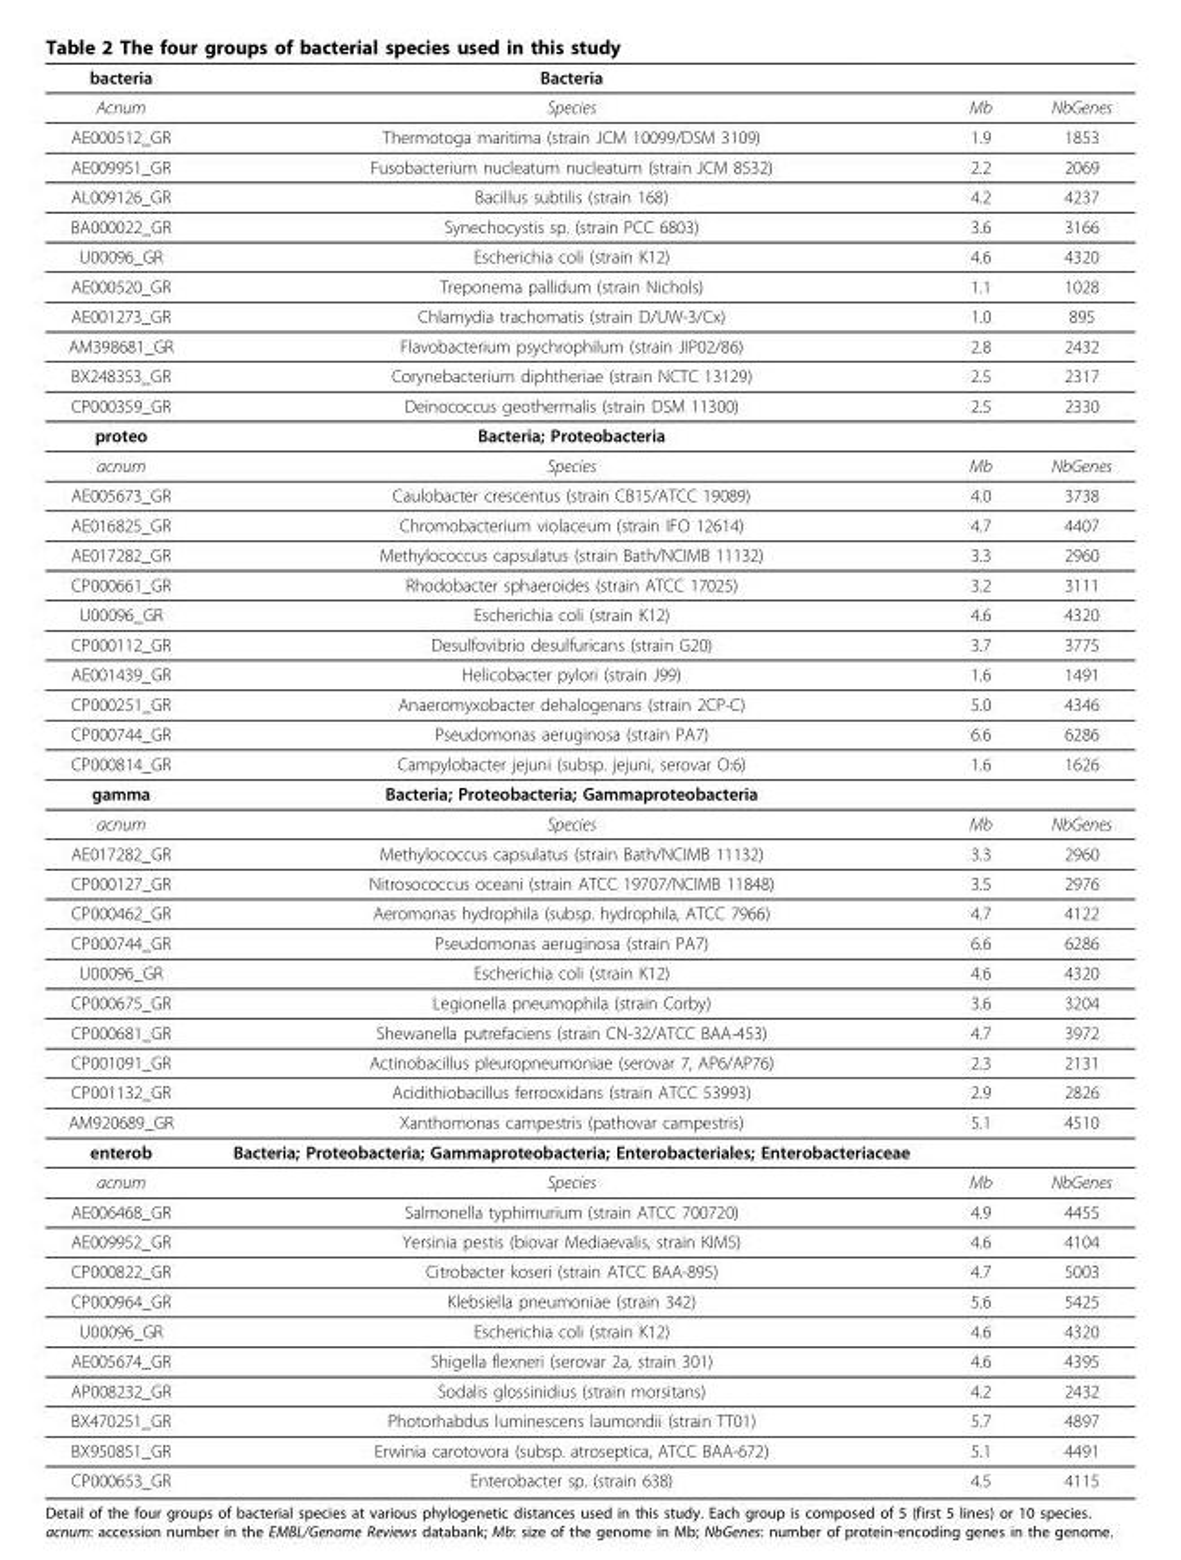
<table><thead><tr><td>bacteria</td><td>Bacteria</td><td></td><td></td></tr></thead><tbody><tr><td>Acnum</td><td>Species</td><td>Mb</td><td>NbGenes</td></tr><tr><td>AE000512_GR</td><td>Thermotoga maritima (strain JCM 10099/DSM 3109)</td><td>1.9</td><td>1853</td></tr><tr><td>AE009951_GR</td><td>Fusobacterium nucleatum nucleatum (strain JCM 8532)</td><td>2.2</td><td>2069</td></tr><tr><td>AL009126_GR</td><td>Bacillus subtilis (strain 168)</td><td>4.2</td><td>4237</td></tr><tr><td>BA000022_GR</td><td>Synechocystis sp. (strain PCC 6803)</td><td>3.6</td><td>3166</td></tr><tr><td>U00096_GR</td><td>Escherichia coli (strain K12)</td><td>4.6</td><td>4320</td></tr><tr><td>AE000520_GR</td><td>Treponema pallidum (strain Nichols)</td><td>1.1</td><td>1028</td></tr><tr><td>AE001273_GR</td><td>Chlamydia trachomatis (strain D/UW-3/Cx)</td><td>1.0</td><td>895</td></tr><tr><td>AM398681_GR</td><td>Flavobacterium psychrophilum (strain JIP02/86)</td><td>2.8</td><td>2432</td></tr><tr><td>BX248353_GR</td><td>Corynebacterium diphtheriae (strain NCTC 13129)</td><td>2.5</td><td>2317</td></tr><tr><td>CP000359_GR</td><td>Deinococcus geothermalis (strain DSM 11300)</td><td>2.5</td><td>2330</td></tr><tr><td>proteo</td><td>Bacteria; Proteobacteria</td><td></td><td></td></tr><tr><td>acnum</td><td>Species</td><td>Mb</td><td>NbGenes</td></tr><tr><td>AE005673_GR</td><td>Caulobacter crescentus (strain CB15/ATCC 19089)</td><td>4.0</td><td>3738</td></tr><tr><td>AE016825_GR</td><td>Chromobacterium violaceum (strain IFO 12614)</td><td>4.7</td><td>4407</td></tr><tr><td>AE017282_GR</td><td>Methylococcus capsulatus (strain Bath/NCIMB 11132)</td><td>3.3</td><td>2960</td></tr><tr><td>CP000661_GR</td><td>Rhodobacter sphaeroides (strain ATCC 17025)</td><td>3.2</td><td>3111</td></tr><tr><td>U00096_GR</td><td>Escherichia coli (strain K12)</td><td>4.6</td><td>4320</td></tr><tr><td>CP000112_GR</td><td>Desulfovibrio desulfuricans (strain G20)</td><td>3.7</td><td>3775</td></tr><tr><td>AE001439_GR</td><td>Helicobacter pylori (strain J99)</td><td>1.6</td><td>1491</td></tr><tr><td>CP000251_GR</td><td>Anaeromyxobacter dehalogenans (strain 2CP-C)</td><td>5.0</td><td>4346</td></tr><tr><td>CP000744_GR</td><td>Pseudomonas aeruginosa (strain PA7)</td><td>6.6</td><td>6286</td></tr><tr><td>CP000814_GR</td><td>Campylobacter jejuni (subsp. jejuni, serovar O:6)</td><td>1.6</td><td>1626</td></tr><tr><td>gamma</td><td>Bacteria; Proteobacteria; Gammaproteobacteria</td><td></td><td></td></tr><tr><td>acnum</td><td>Species</td><td>Mb</td><td>NbGenes</td></tr><tr><td>AE017282_GR</td><td>Methylococcus capsulatus (strain Bath/NCIMB 11132)</td><td>3.3</td><td>2960</td></tr><tr><td>CP000127_GR</td><td>Nitrosococcus oceani (strain ATCC 19707/NCIMB 11848)</td><td>3.5</td><td>2976</td></tr><tr><td>CP000462_GR</td><td>Aeromonas hydrophila (subsp. hydrophila, ATCC 7966)</td><td>4.7</td><td>4122</td></tr><tr><td>CP000744_GR</td><td>Pseudomonas aeruginosa (strain PA7)</td><td>6.6</td><td>6286</td></tr><tr><td>U00096_GR</td><td>Escherichia coli (strain K12)</td><td>4.6</td><td>4320</td></tr><tr><td>CP000675_GR</td><td>Legionella pneumophila (strain Corby)</td><td>3.6</td><td>3204</td></tr><tr><td>CP000681_GR</td><td>Shewanella putrefaciens (strain CN-32/ATCC BAA-453)</td><td>4.7</td><td>3972</td></tr><tr><td>CP001091_GR</td><td>Actinobacillus pleuropneumoniae (serovar 7, AP6/AP76)</td><td>2.3</td><td>2131</td></tr><tr><td>CP001132_GR</td><td>Acidithiobacillus ferrooxidans (strain ATCC 53993)</td><td>2.9</td><td>2826</td></tr><tr><td>AM920689_GR</td><td>Xanthomonas campestris (pathovar campestris)</td><td>5.1</td><td>4510</td></tr><tr><td>enterob</td><td>Bacteria; Proteobacteria; Gammaproteobacteria; Enterobacteriales; Enterobacteriaceae</td><td></td><td></td></tr><tr><td>acnum</td><td>Species</td><td>Mb</td><td>NbGenes</td></tr><tr><td>AE006468_GR</td><td>Salmonella typhimurium (strain ATCC 700720)</td><td>4.9</td><td>4455</td></tr><tr><td>AE009952_GR</td><td>Yersinia pestis (biovar Mediaevalis, strain KIM5)</td><td>4.6</td><td>4104</td></tr><tr><td>CP000822_GR</td><td>Citrobacter koseri (strain ATCC BAA-895)</td><td>4.7</td><td>5003</td></tr><tr><td>CP000964_GR</td><td>Klebsiella pneumoniae (strain 342)</td><td>5.6</td><td>5425</td></tr><tr><td>U00096_GR</td><td>Escherichia coli (strain K12)</td><td>4.6</td><td>4320</td></tr><tr><td>AE005674_GR</td><td>Shigella flexneri (serovar 2a, strain 301)</td><td>4.6</td><td>4395</td></tr><tr><td>AP008232_GR</td><td>Sodalis glossinidius (strain morsitans)</td><td>4.2</td><td>2432</td></tr><tr><td>BX470251_GR</td><td>Photorhabdus luminescens laumondii (strain TT01)</td><td>5.7</td><td>4897</td></tr><tr><td>BX950851_GR</td><td>Erwinia carotovora (subsp. atroseptica, ATCC BAA-672)</td><td>5.1</td><td>4491</td></tr><tr><td>CP000653_GR</td><td>Enterobacter sp. (strain 638)</td><td>4.5</td><td>4115</td></tr></tbody></table>